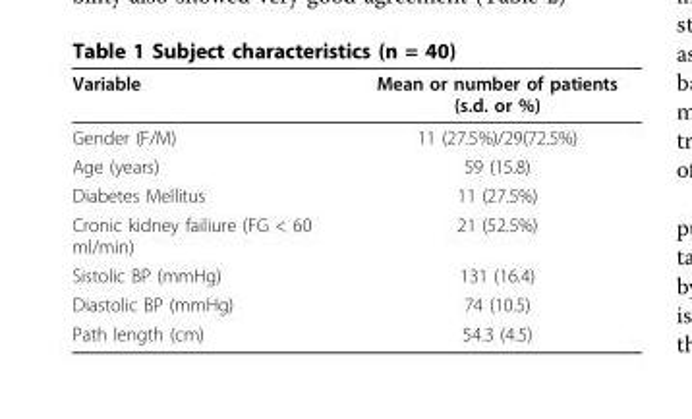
<table><thead><tr><td>Variable</td><td>Mean or number of patients (s.d. or %)</td></tr></thead><tbody><tr><td>Gender (F/M)</td><td>11 (27.5%)/29(72.5%)</td></tr><tr><td>Age (years)</td><td>59 (15.8)</td></tr><tr><td>Diabetes Mellitus</td><td>11 (27.5%)</td></tr><tr><td>Cronic kidney failiure (FG &lt; 60 ml/min)</td><td>21 (52.5%)</td></tr><tr><td>Sistolic BP (mmHg)</td><td>131 (16.4)</td></tr><tr><td>Diastolic BP (mmHg)</td><td>74 (10.5)</td></tr><tr><td>Path length (cm)</td><td>54.3 (4.5)</td></tr></tbody></table>